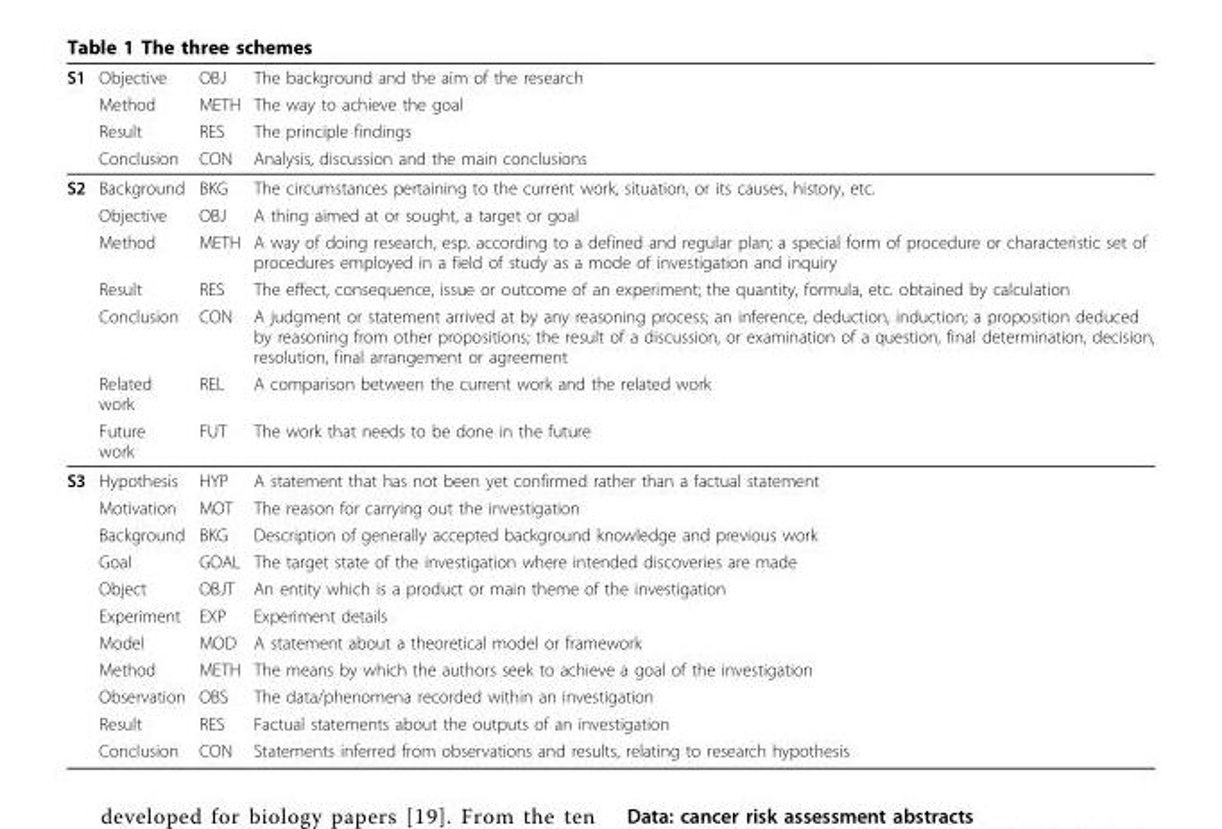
<table><thead><tr><td rowspan="4">S1</td><td rowspan="4">Objective Method Result Conclusion</td><td rowspan="4">OBJ METH RES CON</td><td rowspan="4">The background and the aim of the research The way to achieve the goal The principle findings Analysis, discussion and the main conclusions</td></tr><tr></tr><tr></tr><tr></tr></thead><tbody><tr><td rowspan="7">S2</td><td>Background</td><td>BKG</td><td>The circumstances pertaining to the current work, situation, or its causes, history, etc.</td></tr><tr><td>Objective</td><td>OBJ</td><td>A thing aimed at or sought, a target or goal</td></tr><tr><td>Method</td><td>METH</td><td>A way of doing research, esp. according to a defined and regular plan; a special form of procedure or characteristic set of procedures employed in a field of study as a mode of investigation and inquiry</td></tr><tr><td>Result</td><td>RES</td><td>The effect, consequence, issue or outcome of an experiment; the quantity, formula, etc. obtained by calculation</td></tr><tr><td>Conclusion</td><td>CON</td><td>A judgment or statement arrived at by any reasoning process; an inference, deduction, induction; a proposition deduced by reasoning from other propositions; the result of a discussion, or examination of a question, final determination, decision, resolution, final arrangement or agreement</td></tr><tr><td>Related work</td><td>REL</td><td>A comparison between the current work and the related work</td></tr><tr><td>Future work</td><td>FUT</td><td>The work that needs to be done in the future</td></tr><tr><td rowspan="11">S3</td><td>Hypothesis</td><td>HYP</td><td>A statement that has not been yet confirmed rather than a factual statement</td></tr><tr><td>Motivation</td><td>MOT</td><td>The reason for carrying out the investigation</td></tr><tr><td>Background</td><td>BKG</td><td>Description of generally accepted background knowledge and previous work</td></tr><tr><td>Goal</td><td>GOAL</td><td>The target state of the investigation where intended discoveries are made</td></tr><tr><td>Object</td><td>OBJT</td><td>An entity which is a product or main theme of the investigation</td></tr><tr><td>Experiment</td><td>EXP</td><td>Experiment details</td></tr><tr><td>Model</td><td>MOD</td><td>A statement about a theoretical model or framework</td></tr><tr><td>Method</td><td>METH</td><td>The means by which the authors seek to achieve a goal of the investigation</td></tr><tr><td>Observation</td><td>OBS</td><td>The data/phenomena recorded within an investigation</td></tr><tr><td>Result</td><td>RES</td><td>Factual statements about the outputs of an investigation</td></tr><tr><td>Conclusion</td><td>CON</td><td>Statements inferred from observations and results, relating to research hypothesis</td></tr></tbody></table>